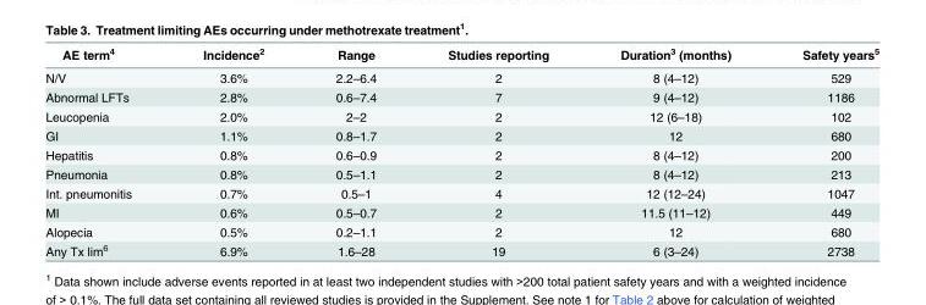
<table><thead><tr><td>AE term<sup>4</sup></td><td>Incidence<sup>2</sup></td><td>Range</td><td>Studies reporting</td><td>Duration<sup>3</sup> (months)</td><td>Safety years<sup>5</sup></td></tr></thead><tbody><tr><td>N/V</td><td>3.6%</td><td>2.2–6.4</td><td>2</td><td>8 (4–12)</td><td>529</td></tr><tr><td>Abnormal LFTs</td><td>2.8%</td><td>0.6–7.4</td><td>7</td><td>9 (4–12)</td><td>1186</td></tr><tr><td>Leucopenia</td><td>2.0%</td><td>2–2</td><td>2</td><td>12 (6–18)</td><td>102</td></tr><tr><td>GI</td><td>1.1%</td><td>0.8–1.7</td><td>2</td><td>12</td><td>680</td></tr><tr><td>Hepatitis</td><td>0.8%</td><td>0.6–0.9</td><td>2</td><td>8 (4–12)</td><td>200</td></tr><tr><td>Pneumonia</td><td>0.8%</td><td>0.5–1.1</td><td>2</td><td>8 (4–12)</td><td>213</td></tr><tr><td>Int. pneumonitis</td><td>0.7%</td><td>0.5–1</td><td>4</td><td>12 (12–24)</td><td>1047</td></tr><tr><td>MI</td><td>0.6%</td><td>0.5–0.7</td><td>2</td><td>11.5 (11–12)</td><td>449</td></tr><tr><td>Alopecia</td><td>0.5%</td><td>0.2–1.1</td><td>2</td><td>12</td><td>680</td></tr><tr><td>Any Tx lim<sup>6</sup></td><td>6.9%</td><td>1.6–28</td><td>19</td><td>6 (3–24)</td><td>2738</td></tr></tbody></table>